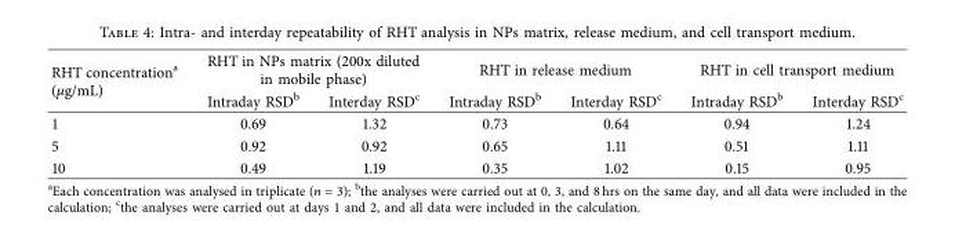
<table><thead><tr><td rowspan="2">RHT concentration<sup>a</sup> (µg/mL)</td><td colspan="2">RHT in NPs matrix (200x diluted in mobile phase)</td><td colspan="2">RHT in release medium</td><td colspan="2">RHT in cell transport medium</td></tr><tr><td>Intraday RSD<sup>b</sup></td><td>Interday RSD<sup>c</sup></td><td>Intraday RSD<sup>b</sup></td><td>Interday RSD<sup>c</sup></td><td>Intraday RSD<sup>b</sup></td><td>Interday RSD<sup>c</sup></td></tr></thead><tbody><tr><td>1</td><td>0.69</td><td>1.32</td><td>0.73</td><td>0.64</td><td>0.94</td><td>1.24</td></tr><tr><td>5</td><td>0.92</td><td>0.92</td><td>0.65</td><td>1.11</td><td>0.51</td><td>1.11</td></tr><tr><td>10</td><td>0.49</td><td>1.19</td><td>0.35</td><td>1.02</td><td>0.15</td><td>0.95</td></tr></tbody></table>